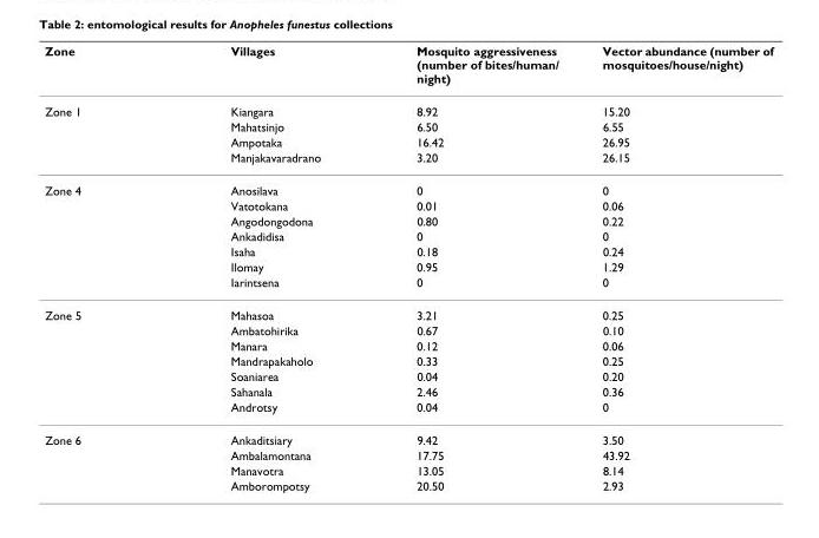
<table><thead><tr><td>Zone</td><td>Villages</td><td>Mosquito aggressiveness (number of bites/human/ night)</td><td>Vector abundance (number of mosquitoes/house/night)</td></tr></thead><tbody><tr><td rowspan="4">Zone 1</td><td>Kiangara</td><td>8.92</td><td>15.20</td></tr><tr><td>Mahatsinjo</td><td>6.50</td><td>6.55</td></tr><tr><td>Ampotaka</td><td>16.42</td><td>26.95</td></tr><tr><td>Manjakavaradrano</td><td>3.20</td><td>26.15</td></tr><tr><td rowspan="7">Zone 4</td><td>Anosilava</td><td>0</td><td>0</td></tr><tr><td>Vatotokana</td><td>0.01</td><td>0.06</td></tr><tr><td>Angodongodona</td><td>0.80</td><td>0.22</td></tr><tr><td>Ankadidisa</td><td>0</td><td>0</td></tr><tr><td>Isaha</td><td>0.18</td><td>0.24</td></tr><tr><td>Ilomay</td><td>0.95</td><td>1.29</td></tr><tr><td>Iarintsena</td><td>0</td><td>0</td></tr><tr><td rowspan="7">Zone 5</td><td>Mahasoa</td><td>3.21</td><td>0.25</td></tr><tr><td>Ambatohirika</td><td>0.67</td><td>0.10</td></tr><tr><td>Manara</td><td>0.12</td><td>0.06</td></tr><tr><td>Mandrapakaholo</td><td>0.33</td><td>0.25</td></tr><tr><td>Soaniarea</td><td>0.04</td><td>0.20</td></tr><tr><td>Sahanala</td><td>2.46</td><td>0.36</td></tr><tr><td>Androtsy</td><td>0.04</td><td>0</td></tr><tr><td rowspan="4">Zone 6</td><td>Ankaditsiary</td><td>9.42</td><td>3.50</td></tr><tr><td>Ambalamontana</td><td>17.75</td><td>43.92</td></tr><tr><td>Manavotra</td><td>13.05</td><td>8.14</td></tr><tr><td>Amborompotsy</td><td>20.50</td><td>2.93</td></tr></tbody></table>